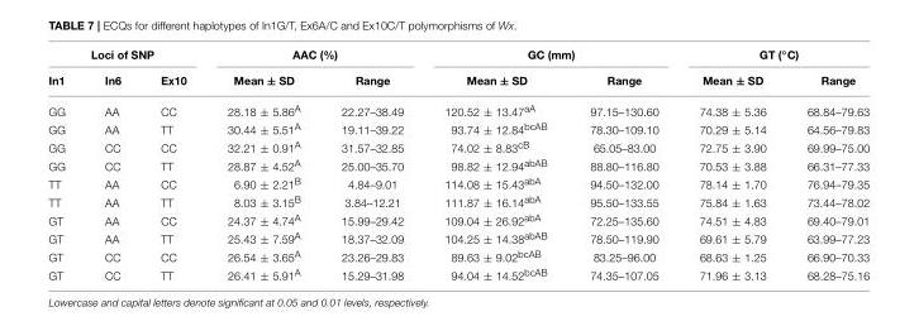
<table><thead><tr><td colspan="3">Loci of SNP</td><td colspan="2">AAC (%)</td><td colspan="2">GC (mm)</td><td colspan="2">GT (◦C)</td></tr><tr><td>In1</td><td>In6</td><td>Ex10</td><td>Mean ± SD</td><td>Range</td><td>Mean ± SD</td><td>Range</td><td>Mean ± SD</td><td>Range</td></tr></thead><tbody><tr><td>GG</td><td>AA</td><td>CC</td><td>28.18 ± 5.86<sup>A</sup></td><td>22.27–38.49</td><td>120.52 ± 13.47<sup>aA</sup></td><td>97.15–130.60</td><td>74.38 ± 5.36</td><td>68.84–79.63</td></tr><tr><td>GG</td><td>AA</td><td>TT</td><td>30.44 ± 5.51<sup>A</sup></td><td>19.11–39.22</td><td>93.74 ± 12.84<sup>bcAB</sup></td><td>78.30–109.10</td><td>70.29 ± 5.14</td><td>64.56–79.83</td></tr><tr><td>GG</td><td>CC</td><td>CC</td><td>32.21 ± 0.91<sup>A</sup></td><td>31.57–32.85</td><td>74.02 ± 8.83<sup>cB</sup></td><td>65.05–83.00</td><td>72.75 ± 3.90</td><td>69.99–75.00</td></tr><tr><td>GG</td><td>CC</td><td>TT</td><td>28.87 ± 4.52<sup>A</sup></td><td>25.00–35.70</td><td>98.82 ± 12.94<sup>abAB</sup></td><td>88.80–116.80</td><td>70.53 ± 3.88</td><td>66.31–77.33</td></tr><tr><td>TT</td><td>AA</td><td>CC</td><td>6.90 ± 2.21<sup>B</sup></td><td>4.84–9.01</td><td>114.08 ± 15.43<sup>abA</sup></td><td>94.50–132.00</td><td>78.14 ± 1.70</td><td>76.94–79.35</td></tr><tr><td>TT</td><td>AA</td><td>TT</td><td>8.03 ± 3.15<sup>B</sup></td><td>3.84–12.21</td><td>111.87 ± 16.14<sup>abA</sup></td><td>95.50–133.55</td><td>75.84 ± 1.63</td><td>73.44–78.02</td></tr><tr><td>GT</td><td>AA</td><td>CC</td><td>24.37 ± 4.74<sup>A</sup></td><td>15.99–29.42</td><td>109.04 ± 26.92<sup>abA</sup></td><td>72.25–135.60</td><td>74.51 ± 4.83</td><td>69.40–79.01</td></tr><tr><td>GT</td><td>AA</td><td>TT</td><td>25.43 ± 7.59<sup>A</sup></td><td>18.37–32.09</td><td>104.25 ± 14.38<sup>abAB</sup></td><td>78.50–119.90</td><td>69.61 ± 5.79</td><td>63.99–77.23</td></tr><tr><td>GT</td><td>CC</td><td>CC</td><td>26.54 ± 3.65<sup>A</sup></td><td>23.26–29.83</td><td>89.63 ± 9.02<sup>bcAB</sup></td><td>83.25–96.00</td><td>68.63 ± 1.25</td><td>66.90–70.33</td></tr><tr><td>GT</td><td>CC</td><td>TT</td><td>26.41 ± 5.91<sup>A</sup></td><td>15.29–31.98</td><td>94.04 ± 14.52<sup>bcAB</sup></td><td>74.35–107.05</td><td>71.96 ± 3.13</td><td>68.28–75.16</td></tr></tbody></table>